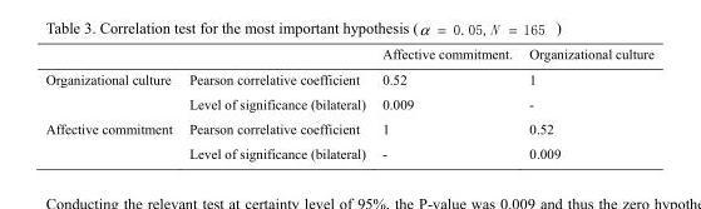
<table><thead><tr><td></td><td></td><td>Affective commitment.</td><td>Organizational culture</td></tr></thead><tbody><tr><td rowspan="2">Organizational culture</td><td>Pearson correlative coefficient</td><td>0.52</td><td>1</td></tr><tr><td>Level of significance (bilateral)</td><td>0.009</td><td>-</td></tr><tr><td rowspan="2">Affective commitment</td><td>Pearson correlative coefficient</td><td>1</td><td>0.52</td></tr><tr><td>Level of significance (bilateral)</td><td>-</td><td>0.009</td></tr></tbody></table>